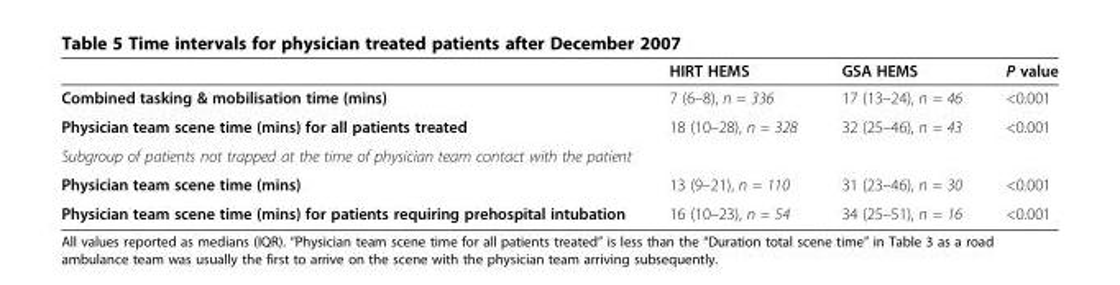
<table><thead><tr><td></td><td>HIRT HEMS</td><td>GSA HEMS</td><td>P value</td></tr></thead><tbody><tr><td>Combined tasking &amp; mobilisation time (mins)</td><td>7 (6–8), n = 336</td><td>17 (13–24), n = 46</td><td>&lt;0.001</td></tr><tr><td>Physician team scene time (mins) for all patients treated</td><td>18 (10–28), n = 328</td><td>32 (25–46), n = 43</td><td>&lt;0.001</td></tr><tr><td colspan="4">Subgroup of patients not trapped at the time of physician team contact with the patient</td></tr><tr><td>Physician team scene time (mins)</td><td>13 (9–21), n = 110</td><td>31 (23–46), n = 30</td><td>&lt;0.001</td></tr><tr><td>Physician team scene time (mins) for patients requiring prehospital intubation</td><td>16 (10–23), n = 54</td><td>34 (25–51), n = 16</td><td>&lt;0.001</td></tr></tbody></table>